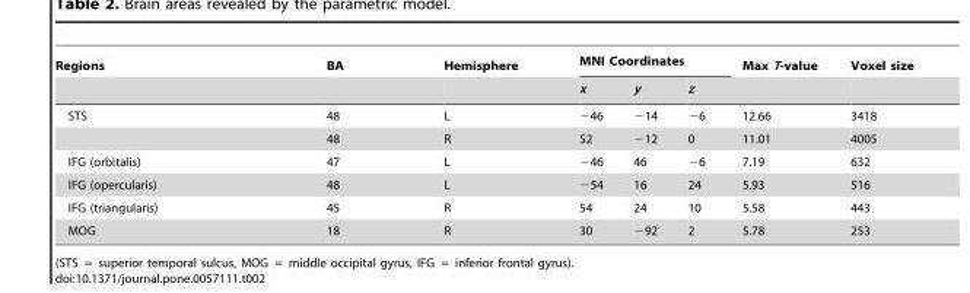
<table><thead><tr><td rowspan="2">Regions</td><td rowspan="2">BA</td><td rowspan="2">Hemisphere</td><td colspan="3">MNI Coordinates</td><td rowspan="2">Max T-value</td><td rowspan="2">Voxel size</td></tr><tr><td>x</td><td>y</td><td>z</td></tr></thead><tbody><tr><td rowspan="2">STS</td><td>48</td><td>L</td><td>−46</td><td>−14</td><td>−6</td><td>12.66</td><td>3418</td></tr><tr><td>48</td><td>R</td><td>52</td><td>−12</td><td>0</td><td>11.01</td><td>4005</td></tr><tr><td>IFG (orbitalis)</td><td>47</td><td>L</td><td>−46</td><td>46</td><td>−6</td><td>7.19</td><td>632</td></tr><tr><td>IFG (opercularis)</td><td>48</td><td>L</td><td>−54</td><td>16</td><td>24</td><td>5.93</td><td>516</td></tr><tr><td>IFG (triangularis)</td><td>45</td><td>R</td><td>54</td><td>24</td><td>10</td><td>5.58</td><td>443</td></tr><tr><td>MOG</td><td>18</td><td>R</td><td>30</td><td>−92</td><td>2</td><td>5.78</td><td>253</td></tr></tbody></table>